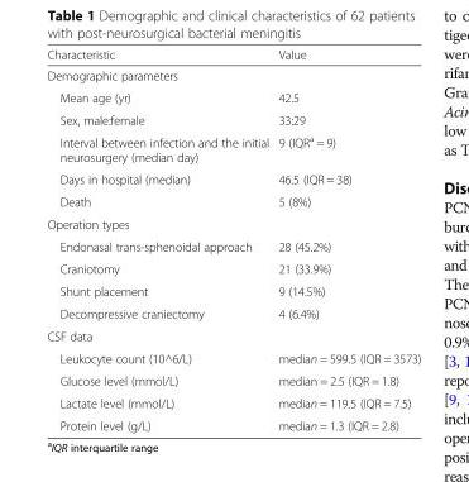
<table><thead><tr><td>Characteristic</td><td>Value</td></tr></thead><tbody><tr><td colspan="2">Demographic parameters</td></tr><tr><td>Mean age (yr)</td><td>42.5</td></tr><tr><td>Sex, male:female</td><td>33:29</td></tr><tr><td>Interval between infection and the initial neurosurgery (median day)</td><td>9 (IQR<sup>a</sup> = 9)</td></tr><tr><td>Days in hospital (median)</td><td>46.5 (IQR = 38)</td></tr><tr><td>Death</td><td>5 (8%)</td></tr><tr><td colspan="2">Operation types</td></tr><tr><td>Endonasal trans-sphenoidal approach</td><td>28 (45.2%)</td></tr><tr><td>Craniotomy</td><td>21 (33.9%)</td></tr><tr><td>Shunt placement</td><td>9 (14.5%)</td></tr><tr><td>Decompressive craniectomy</td><td>4 (6.4%)</td></tr><tr><td colspan="2">CSF data</td></tr><tr><td>Leukocyte count (10^6/L)</td><td>median = 599.5 (IQR = 3573)</td></tr><tr><td>Glucose level (mmol/L)</td><td>median = 2.5 (IQR = 1.8)</td></tr><tr><td>Lactate level (mmol/L)</td><td>median = 119.5 (IQR = 7.5)</td></tr><tr><td>Protein level (g/L)</td><td>median = 1.3 (IQR = 2.8)</td></tr></tbody></table>